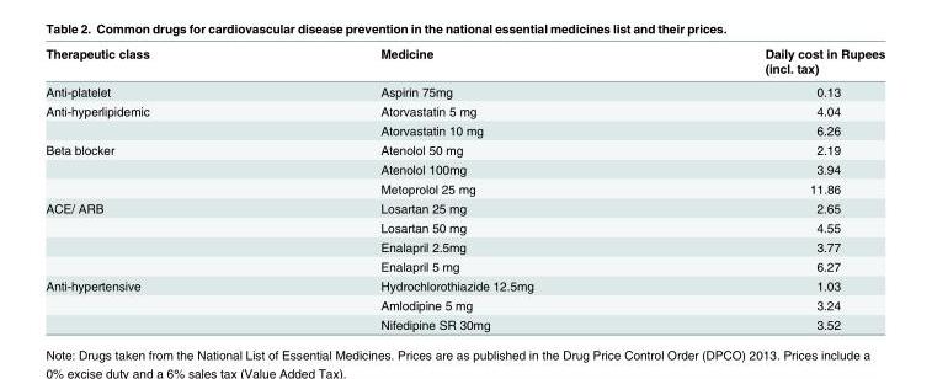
<table><thead><tr><td rowspan="2">Therapeutic class</td><td rowspan="2">Medicine</td><td rowspan="2">Daily cost in Rupees (incl. tax)</td></tr><tr></tr></thead><tbody><tr><td>Anti-platelet</td><td>Aspirin 75mg</td><td>0.13</td></tr><tr><td rowspan="2">Anti-hyperlipidemic</td><td>Atorvastatin 5 mg</td><td>4.04</td></tr><tr><td>Atorvastatin 10 mg</td><td>6.26</td></tr><tr><td rowspan="3">Beta blocker</td><td>Atenolol 50 mg</td><td>2.19</td></tr><tr><td>Atenolol 100mg</td><td>3.94</td></tr><tr><td>Metoprolol 25 mg</td><td>11.86</td></tr><tr><td rowspan="4">ACE/ ARB</td><td>Losartan 25 mg</td><td>2.65</td></tr><tr><td>Losartan 50 mg</td><td>4.55</td></tr><tr><td>Enalapril 2.5mg</td><td>3.77</td></tr><tr><td>Enalapril 5 mg</td><td>6.27</td></tr><tr><td rowspan="3">Anti-hypertensive</td><td>Hydrochlorothiazide 12.5mg</td><td>1.03</td></tr><tr><td>Amlodipine 5 mg</td><td>3.24</td></tr><tr><td>Nifedipine SR 30mg</td><td>3.52</td></tr></tbody></table>